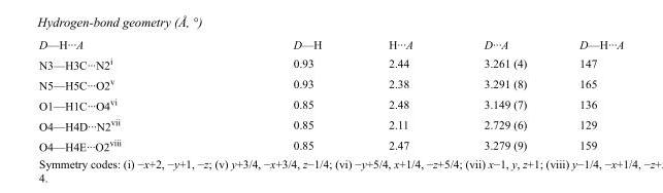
<table><tbody><tr><td>D—H···A</td><td>D—H</td><td>H···A</td><td>D···A</td><td>D—H···A</td></tr><tr><td>N3—H3C···N2<sup>i</sup></td><td>0.93</td><td>2.44</td><td>3.261 (4)</td><td>147</td></tr><tr><td>N5—H5C···O2<sup>v</sup></td><td>0.93</td><td>2.38</td><td>3.291 (8)</td><td>165</td></tr><tr><td>O1—H1C···O4<sup>vi</sup></td><td>0.85</td><td>2.48</td><td>3.149 (7)</td><td>136</td></tr><tr><td>O4—H4D···N2<sup>vii</sup></td><td>0.85</td><td>2.11</td><td>2.729 (6)</td><td>129</td></tr><tr><td>O4—H4E···O2<sup>viii</sup></td><td>0.85</td><td>2.47</td><td>3.279 (9)</td><td>159</td></tr></tbody></table>